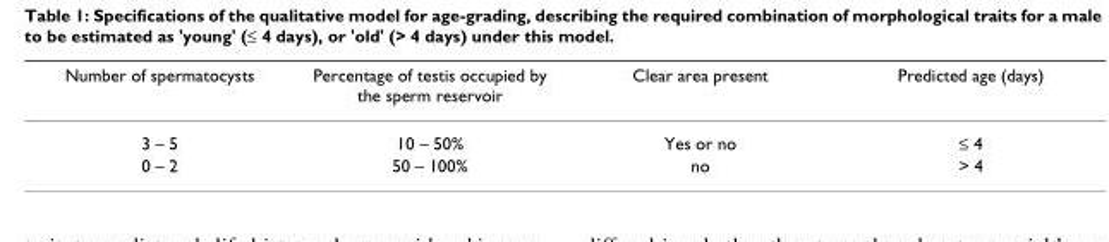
<table><thead><tr><td>Number of spermatocysts</td><td>Percentage of testis occupied by the sperm reservoir</td><td>Clear area present</td><td>Predicted age (days)</td></tr></thead><tbody><tr><td>3 – 5</td><td>10 – 50%</td><td>Yes or no</td><td>≤ 4</td></tr><tr><td>0 – 2</td><td>50 – 100%</td><td>no</td><td>&gt; 4</td></tr></tbody></table>